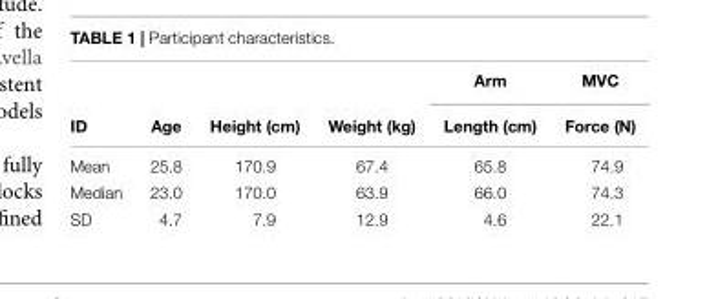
<table><thead><tr><td rowspan="2">ID</td><td rowspan="2">Age</td><td rowspan="2">Height (cm)</td><td rowspan="2">Weight (kg)</td><td rowspan="2">Arm Length (cm)</td><td rowspan="2">MVC Force (N)</td></tr><tr></tr></thead><tbody><tr><td>Mean</td><td>25.8</td><td>170.9</td><td>67.4</td><td>65.8</td><td>74.9</td></tr><tr><td>Median</td><td>23.0</td><td>170.0</td><td>63.9</td><td>66.0</td><td>74.3</td></tr><tr><td>SD</td><td>4.7</td><td>7.9</td><td>12.9</td><td>4.6</td><td>22.1</td></tr></tbody></table>